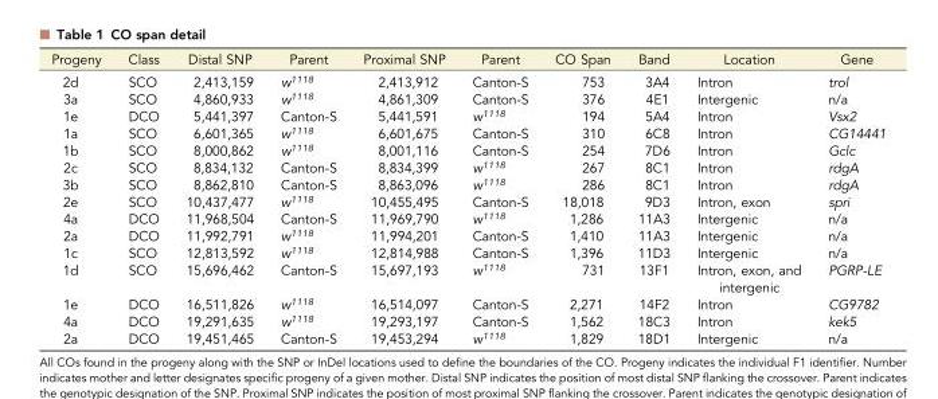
<table><thead><tr><td>Progeny</td><td>Class</td><td>Distal SNP</td><td>Parent</td><td>Proximal SNP</td><td>Parent</td><td>CO Span</td><td>Band</td><td>Location</td><td>Gene</td></tr></thead><tbody><tr><td>2d</td><td>SCO</td><td>2,413,159</td><td>w<sup>1118</sup></td><td>2,413,912</td><td>Canton-S</td><td>753</td><td>3A4</td><td>Intron</td><td>trol</td></tr><tr><td>3a</td><td>SCO</td><td>4,860,933</td><td>w<sup>1118</sup></td><td>4,861,309</td><td>Canton-S</td><td>376</td><td>4E1</td><td>Intergenic</td><td>n/a</td></tr><tr><td>1e</td><td>DCO</td><td>5,441,397</td><td>Canton-S</td><td>5,441,591</td><td>w<sup>1118</sup></td><td>194</td><td>5A4</td><td>Intron</td><td>Vsx2</td></tr><tr><td>1a</td><td>SCO</td><td>6,601,365</td><td>w<sup>1118</sup></td><td>6,601,675</td><td>Canton-S</td><td>310</td><td>6C8</td><td>Intron</td><td>CG14441</td></tr><tr><td>1b</td><td>SCO</td><td>8,000,862</td><td>w<sup>1118</sup></td><td>8,001,116</td><td>Canton-S</td><td>254</td><td>7D6</td><td>Intron</td><td>Gclc</td></tr><tr><td>2c</td><td>SCO</td><td>8,834,132</td><td>Canton-S</td><td>8,834,399</td><td>w<sup>1118</sup></td><td>267</td><td>8C1</td><td>Intron</td><td>rdgA</td></tr><tr><td>3b</td><td>SCO</td><td>8,862,810</td><td>Canton-S</td><td>8,863,096</td><td>w<sup>1118</sup></td><td>286</td><td>8C1</td><td>Intron</td><td>rdgA</td></tr><tr><td>2e</td><td>SCO</td><td>10,437,477</td><td>w<sup>1118</sup></td><td>10,455,495</td><td>Canton-S</td><td>18,018</td><td>9D3</td><td>Intron, exon</td><td>spri</td></tr><tr><td>4a</td><td>DCO</td><td>11,968,504</td><td>Canton-S</td><td>11,969,790</td><td>w<sup>1118</sup></td><td>1,286</td><td>11A3</td><td>Intergenic</td><td>n/a</td></tr><tr><td>2a</td><td>DCO</td><td>11,992,791</td><td>w<sup>1118</sup></td><td>11,994,201</td><td>Canton-S</td><td>1,410</td><td>11A3</td><td>Intergenic</td><td>n/a</td></tr><tr><td>1c</td><td>SCO</td><td>12,813,592</td><td>w<sup>1118</sup></td><td>12,814,988</td><td>Canton-S</td><td>1,396</td><td>11D3</td><td>Intergenic</td><td>n/a</td></tr><tr><td>1d</td><td>SCO</td><td>15,696,462</td><td>Canton-S</td><td>15,697,193</td><td>w<sup>1118</sup></td><td>731</td><td>13F1</td><td>Intron, exon, and intergenic</td><td>PGRP-LE</td></tr><tr><td>1e</td><td>DCO</td><td>16,511,826</td><td>w<sup>1118</sup></td><td>16,514,097</td><td>Canton-S</td><td>2,271</td><td>14F2</td><td>Intron</td><td>CG9782</td></tr><tr><td>4a</td><td>DCO</td><td>19,291,635</td><td>w<sup>1118</sup></td><td>19,293,197</td><td>Canton-S</td><td>1,562</td><td>18C3</td><td>Intron</td><td>kek5</td></tr><tr><td>2a</td><td>DCO</td><td>19,451,465</td><td>Canton-S</td><td>19,453,294</td><td>w<sup>1118</sup></td><td>1,829</td><td>18D1</td><td>Intergenic</td><td>n/a</td></tr></tbody></table>